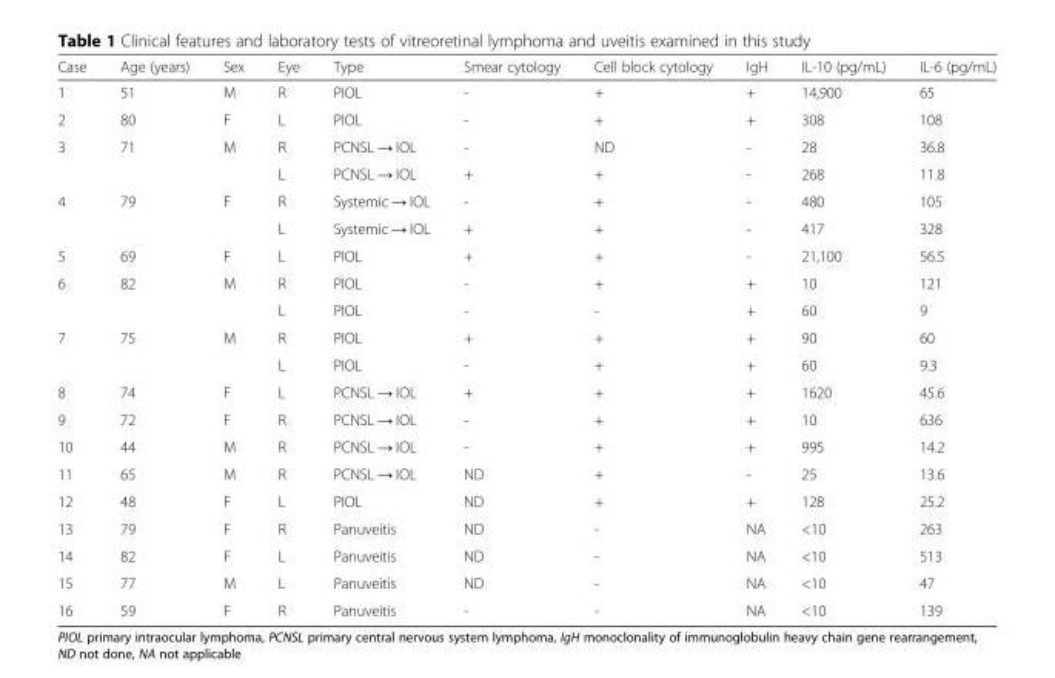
<table><thead><tr><td>Case</td><td>Age (years)</td><td>Sex</td><td>Eye</td><td>Type</td><td>Smear cytology</td><td>Cell block cytology</td><td>IgH</td><td>IL-10 (pg/mL)</td><td>IL-6 (pg/mL)</td></tr></thead><tbody><tr><td>1</td><td>51</td><td>M</td><td>R</td><td>PIOL</td><td>-</td><td>+</td><td>+</td><td>14,900</td><td>65</td></tr><tr><td>2</td><td>80</td><td>F</td><td>L</td><td>PIOL</td><td>-</td><td>+</td><td>+</td><td>308</td><td>108</td></tr><tr><td rowspan="2">3</td><td>71</td><td>M</td><td>R</td><td>PCNSL → IOL</td><td>-</td><td>ND</td><td>-</td><td>28</td><td>36.8</td></tr><tr><td></td><td></td><td>L</td><td>PCNSL → IOL</td><td>+</td><td>+</td><td>-</td><td>268</td><td>11.8</td></tr><tr><td rowspan="2">4</td><td>79</td><td>F</td><td>R</td><td>Systemic → IOL</td><td>-</td><td>+</td><td>-</td><td>480</td><td>105</td></tr><tr><td></td><td></td><td>L</td><td>Systemic → IOL</td><td>+</td><td>+</td><td>-</td><td>417</td><td>328</td></tr><tr><td>5</td><td>69</td><td>F</td><td>L</td><td>PIOL</td><td>+</td><td>+</td><td>-</td><td>21,100</td><td>56.5</td></tr><tr><td rowspan="2">6</td><td>82</td><td>M</td><td>R</td><td>PIOL</td><td>-</td><td>+</td><td>+</td><td>10</td><td>121</td></tr><tr><td></td><td></td><td>L</td><td>PIOL</td><td>-</td><td>-</td><td>+</td><td>60</td><td>9</td></tr><tr><td rowspan="2">7</td><td>75</td><td>M</td><td>R</td><td>PIOL</td><td>+</td><td>+</td><td>+</td><td>90</td><td>60</td></tr><tr><td></td><td></td><td>L</td><td>PIOL</td><td>-</td><td>+</td><td>+</td><td>60</td><td>9.3</td></tr><tr><td>8</td><td>74</td><td>F</td><td>L</td><td>PCNSL → IOL</td><td>+</td><td>+</td><td>+</td><td>1620</td><td>45.6</td></tr><tr><td>9</td><td>72</td><td>F</td><td>R</td><td>PCNSL → IOL</td><td>-</td><td>+</td><td>+</td><td>10</td><td>636</td></tr><tr><td>10</td><td>44</td><td>M</td><td>R</td><td>PCNSL → IOL</td><td>-</td><td>+</td><td>+</td><td>995</td><td>14.2</td></tr><tr><td>11</td><td>65</td><td>M</td><td>R</td><td>PCNSL → IOL</td><td>ND</td><td>+</td><td>-</td><td>25</td><td>13.6</td></tr><tr><td>12</td><td>48</td><td>F</td><td>L</td><td>PIOL</td><td>ND</td><td>+</td><td>+</td><td>128</td><td>25.2</td></tr><tr><td>13</td><td>79</td><td>F</td><td>R</td><td>Panuveitis</td><td>ND</td><td>-</td><td>NA</td><td>&lt;10</td><td>263</td></tr><tr><td>14</td><td>82</td><td>F</td><td>L</td><td>Panuveitis</td><td>ND</td><td>-</td><td>NA</td><td>&lt;10</td><td>513</td></tr><tr><td>15</td><td>77</td><td>M</td><td>L</td><td>Panuveitis</td><td>ND</td><td>-</td><td>NA</td><td>&lt;10</td><td>47</td></tr><tr><td>16</td><td>59</td><td>F</td><td>R</td><td>Panuveitis</td><td>-</td><td>-</td><td>NA</td><td>&lt;10</td><td>139</td></tr></tbody></table>